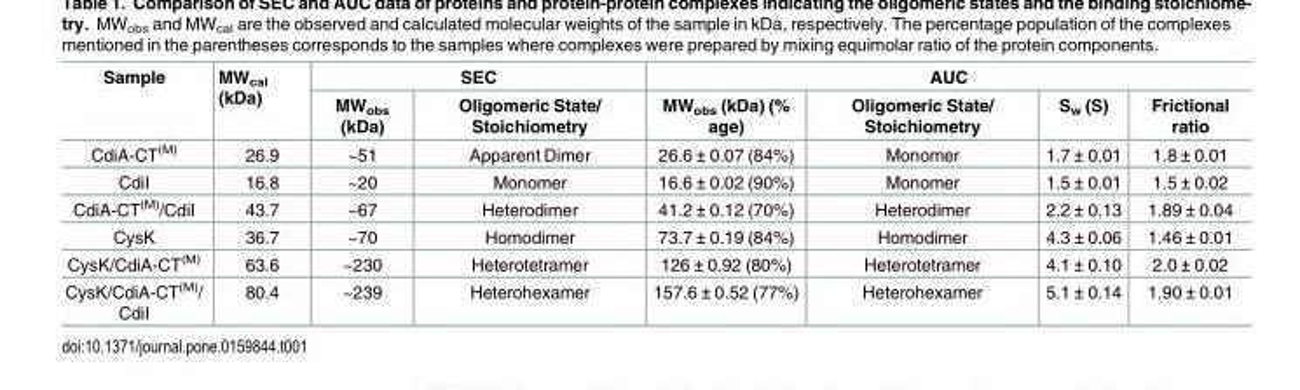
<table><thead><tr><td rowspan="2">Sample</td><td rowspan="2">MW<sub>cal</sub> (kDa)</td><td colspan="2">SEC</td><td colspan="4">AUC</td></tr><tr><td>MW<sub>obs</sub> (kDa)</td><td>Oligomeric State/ Stoichiometry</td><td>MW<sub>obs</sub> (kDa) (% age)</td><td>Oligomeric State/ Stoichiometry</td><td>S<sub>w</sub> (S)</td><td>Frictional ratio</td></tr></thead><tbody><tr><td>CdiA-CT<sup>(M)</sup></td><td>26.9</td><td>~51</td><td>Apparent Dimer</td><td>26.6 ± 0.07 (84%)</td><td>Monomer</td><td>1.7 ± 0.01</td><td>1.8 ± 0.01</td></tr><tr><td>CdiI</td><td>16.8</td><td>~20</td><td>Monomer</td><td>16.6 ± 0.02 (90%)</td><td>Monomer</td><td>1.5 ± 0.01</td><td>1.5 ± 0.02</td></tr><tr><td>CdiA-CT<sup>(M)</sup>/CdiI</td><td>43.7</td><td>~67</td><td>Heterodimer</td><td>41.2 ± 0.12 (70%)</td><td>Heterodimer</td><td>2.2 ± 0.13</td><td>1.89 ± 0.04</td></tr><tr><td>CysK</td><td>36.7</td><td>~70</td><td>Homodimer</td><td>73.7 ± 0.19 (84%)</td><td>Homodimer</td><td>4.3 ± 0.06</td><td>1.46 ± 0.01</td></tr><tr><td>CysK/CdiA-CT<sup>(M)</sup></td><td>63.6</td><td>~230</td><td>Heterotetramer</td><td>126 ± 0.92 (80%)</td><td>Heterotetramer</td><td>4.1 ± 0.10</td><td>2.0 ± 0.02</td></tr><tr><td>CysK/CdiA-CT<sup>(M)</sup>/ CdiI</td><td>80.4</td><td>~239</td><td>Heterohexamer</td><td>157.6 ± 0.52 (77%)</td><td>Heterohexamer</td><td>5.1 ± 0.14</td><td>1.90 ± 0.01</td></tr></tbody></table>